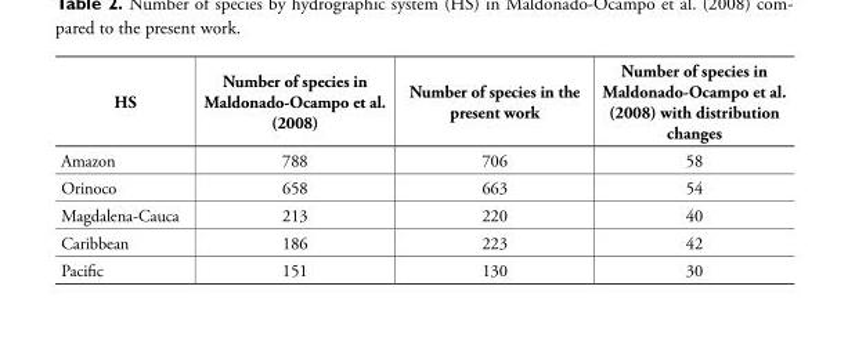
<table><thead><tr><td>HS</td><td>Number of species in Maldonado-Ocampo et al. (2008)</td><td>Number of species in the present work</td><td>Number of species in Maldonado-Ocampo et al. (2008) with distribution changes</td></tr></thead><tbody><tr><td>Amazon</td><td>788</td><td>706</td><td>58</td></tr><tr><td>Orinoco</td><td>658</td><td>663</td><td>54</td></tr><tr><td>Magdalena-Cauca</td><td>213</td><td>220</td><td>40</td></tr><tr><td>Caribbean</td><td>186</td><td>223</td><td>42</td></tr><tr><td>Pacific</td><td>151</td><td>130</td><td>30</td></tr></tbody></table>